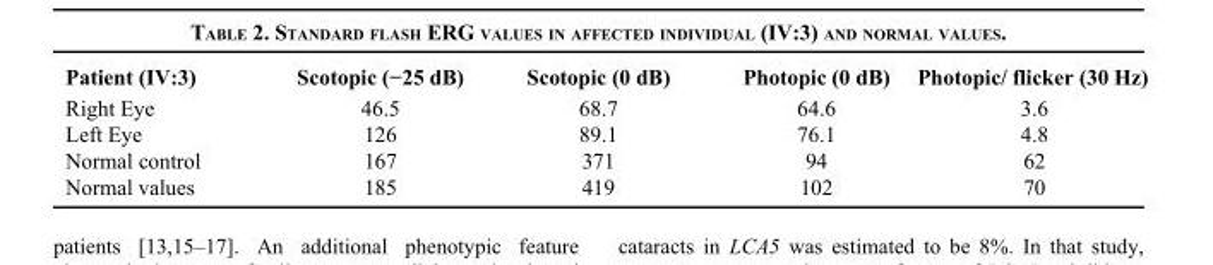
<table><thead><tr><td>Patient (IV:3)</td><td>Scotopic (−25 dB)</td><td>Scotopic (0 dB)</td><td>Photopic (0 dB)</td><td>Photopic/ flicker (30 Hz)</td></tr></thead><tbody><tr><td>Right Eye</td><td>46.5</td><td>68.7</td><td>64.6</td><td>3.6</td></tr><tr><td>Left Eye</td><td>126</td><td>89.1</td><td>76.1</td><td>4.8</td></tr><tr><td>Normal control</td><td>167</td><td>371</td><td>94</td><td>62</td></tr><tr><td>Normal values</td><td>185</td><td>419</td><td>102</td><td>70</td></tr></tbody></table>